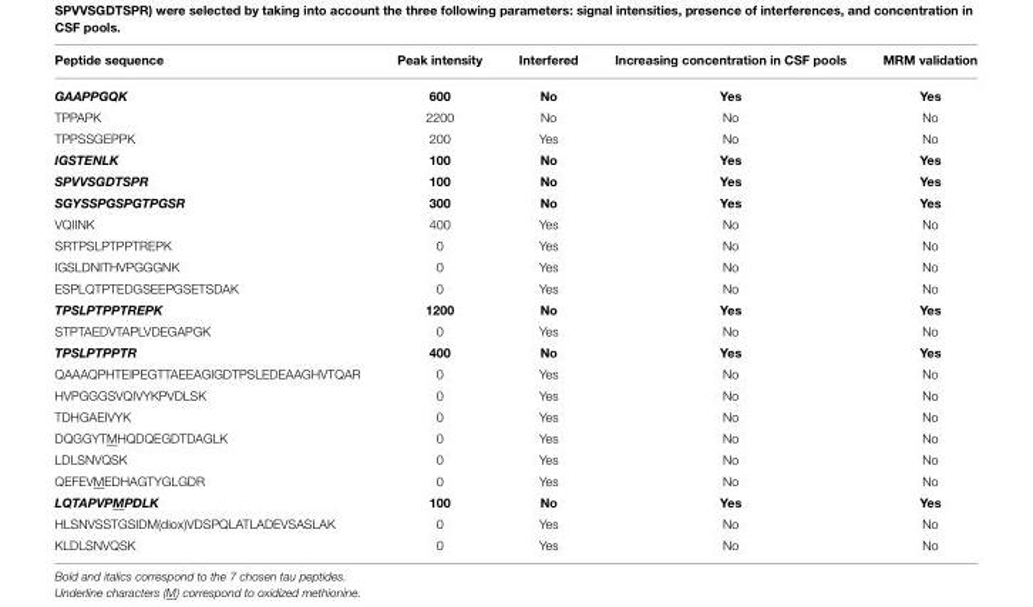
<table><thead><tr><td>Peptide sequence</td><td>Peak intensity</td><td>Interfered</td><td>Increasing concentration in CSF pools</td><td>MRM validation</td></tr></thead><tbody><tr><td>GAAPPGQK</td><td>600</td><td>No</td><td>Yes</td><td>Yes</td></tr><tr><td>TPPAPK</td><td>2200</td><td>No</td><td>No</td><td>No</td></tr><tr><td>TPPSSGEPPK</td><td>200</td><td>Yes</td><td>No</td><td>No</td></tr><tr><td>IGSTENLK</td><td>100</td><td>No</td><td>Yes</td><td>Yes</td></tr><tr><td>SPVVSGDTSPR</td><td>100</td><td>No</td><td>Yes</td><td>Yes</td></tr><tr><td>SGYSSPGSPGTPGSR</td><td>300</td><td>No</td><td>Yes</td><td>Yes</td></tr><tr><td>VQIINK</td><td>400</td><td>Yes</td><td>No</td><td>No</td></tr><tr><td>SRTPSLPTPPTREPK</td><td>0</td><td>Yes</td><td>No</td><td>No</td></tr><tr><td>IGSLDNITHVPGGGNK</td><td>0</td><td>Yes</td><td>No</td><td>No</td></tr><tr><td>ESPLQTPTEDGSEEPGSETSDAK</td><td>0</td><td>Yes</td><td>No</td><td>No</td></tr><tr><td>TPSLPTPPTREPK</td><td>1200</td><td>No</td><td>Yes</td><td>Yes</td></tr><tr><td>STPTAEDVTAPLVDEGAPGK</td><td>0</td><td>Yes</td><td>No</td><td>No</td></tr><tr><td>TPSLPTPPTR</td><td>400</td><td>No</td><td>Yes</td><td>Yes</td></tr><tr><td>QAAAQPHTEIPEGTTAEEAGIGDTPSLEDEAAGHVTQAR</td><td>0</td><td>Yes</td><td>No</td><td>No</td></tr><tr><td>HVPGGGSVQIVYKPVDLSK</td><td>0</td><td>Yes</td><td>No</td><td>No</td></tr><tr><td>TDHGAEIVYK</td><td>0</td><td>Yes</td><td>No</td><td>No</td></tr><tr><td>DQGGYTMHQDQEGDTDAGLK</td><td>0</td><td>Yes</td><td>No</td><td>No</td></tr><tr><td>LDLSNVQSK</td><td>0</td><td>Yes</td><td>No</td><td>No</td></tr><tr><td>QEFEVMEDHAGTYGLGDR</td><td>0</td><td>Yes</td><td>No</td><td>No</td></tr><tr><td>LQTAPVPMPDLK</td><td>100</td><td>No</td><td>Yes</td><td>Yes</td></tr><tr><td>HLSNVSSTGSIDM(diox)VDSPQLATLADEVSASLAK</td><td>0</td><td>Yes</td><td>No</td><td>No</td></tr><tr><td>KLDLSNVQSK</td><td>0</td><td>Yes</td><td>No</td><td>No</td></tr></tbody></table>